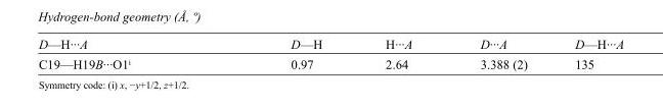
<table><tbody><tr><td>D—H···A</td><td>D—H</td><td>H···A</td><td>D···A</td><td>D—H···A</td></tr><tr><td>C19—H19B···O1<sup>i</sup></td><td>0.97</td><td>2.64</td><td>3.388 (2)</td><td>135</td></tr></tbody></table>